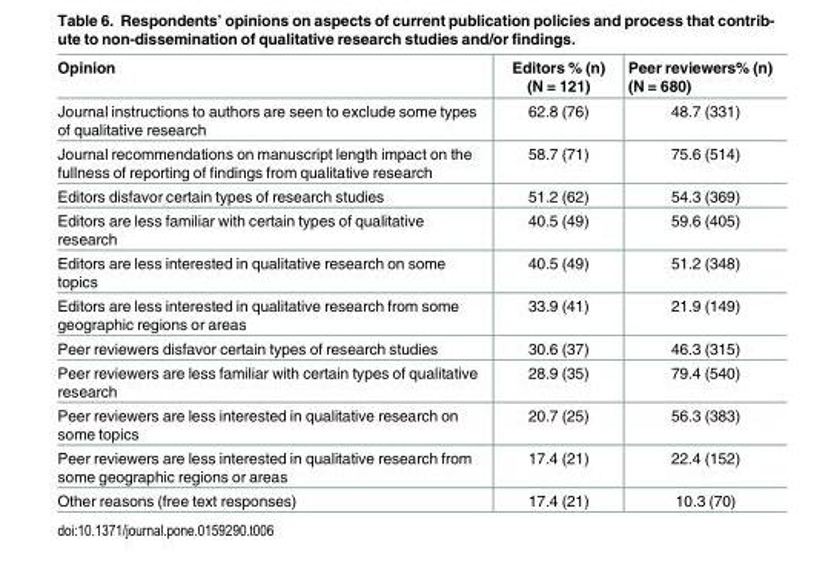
<table><thead><tr><td>Opinion</td><td>Editors % (n) (N = 121)</td><td>Peer reviewers% (n) (N = 680)</td></tr></thead><tbody><tr><td>Journal instructions to authors are seen to exclude some types of qualitative research</td><td>62.8 (76)</td><td>48.7 (331)</td></tr><tr><td>Journal recommendations on manuscript length impact on the fullness of reporting of findings from qualitative research</td><td>58.7 (71)</td><td>75.6 (514)</td></tr><tr><td>Editors disfavor certain types of research studies</td><td>51.2 (62)</td><td>54.3 (369)</td></tr><tr><td>Editors are less familiar with certain types of qualitative research</td><td>40.5 (49)</td><td>59.6 (405)</td></tr><tr><td>Editors are less interested in qualitative research on some topics</td><td>40.5 (49)</td><td>51.2 (348)</td></tr><tr><td>Editors are less interested in qualitative research from some geographic regions or areas</td><td>33.9 (41)</td><td>21.9 (149)</td></tr><tr><td>Peer reviewers disfavor certain types of research studies</td><td>30.6 (37)</td><td>46.3 (315)</td></tr><tr><td>Peer reviewers are less familiar with certain types of qualitative research</td><td>28.9 (35)</td><td>79.4 (540)</td></tr><tr><td>Peer reviewers are less interested in qualitative research on some topics</td><td>20.7 (25)</td><td>56.3 (383)</td></tr><tr><td>Peer reviewers are less interested in qualitative research from some geographic regions or areas</td><td>17.4 (21)</td><td>22.4 (152)</td></tr><tr><td>Other reasons (free text responses)</td><td>17.4 (21)</td><td>10.3 (70)</td></tr></tbody></table>